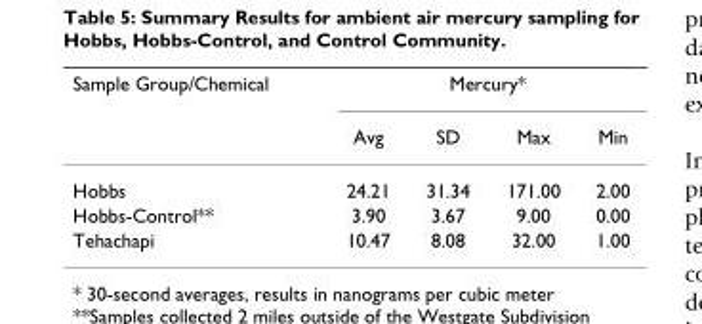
<table><thead><tr><td rowspan="2">Sample Group/Chemical</td><td colspan="4">Mercury*</td></tr><tr><td>Avg</td><td>SD</td><td>Max</td><td>Min</td></tr></thead><tbody><tr><td>Hobbs</td><td>24.21</td><td>31.34</td><td>171.00</td><td>2.00</td></tr><tr><td>Hobbs-Control**</td><td>3.90</td><td>3.67</td><td>9.00</td><td>0.00</td></tr><tr><td>Tehachapi</td><td>10.47</td><td>8.08</td><td>32.00</td><td>1.00</td></tr></tbody></table>